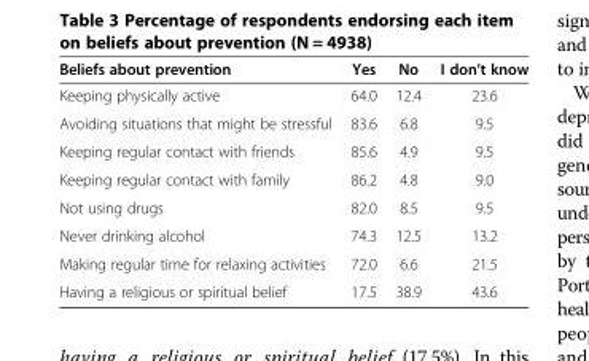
<table><thead><tr><td>Beliefs about prevention</td><td>Yes</td><td>No</td><td>I don’t know</td></tr></thead><tbody><tr><td>Keeping physically active</td><td>64.0</td><td>12.4</td><td>23.6</td></tr><tr><td>Avoiding situations that might be stressful</td><td>83.6</td><td>6.8</td><td>9.5</td></tr><tr><td>Keeping regular contact with friends</td><td>85.6</td><td>4.9</td><td>9.5</td></tr><tr><td>Keeping regular contact with family</td><td>86.2</td><td>4.8</td><td>9.0</td></tr><tr><td>Not using drugs</td><td>82.0</td><td>8.5</td><td>9.5</td></tr><tr><td>Never drinking alcohol</td><td>74.3</td><td>12.5</td><td>13.2</td></tr><tr><td>Making regular time for relaxing activities</td><td>72.0</td><td>6.6</td><td>21.5</td></tr><tr><td>Having a religious or spiritual belief</td><td>17.5</td><td>38.9</td><td>43.6</td></tr></tbody></table>